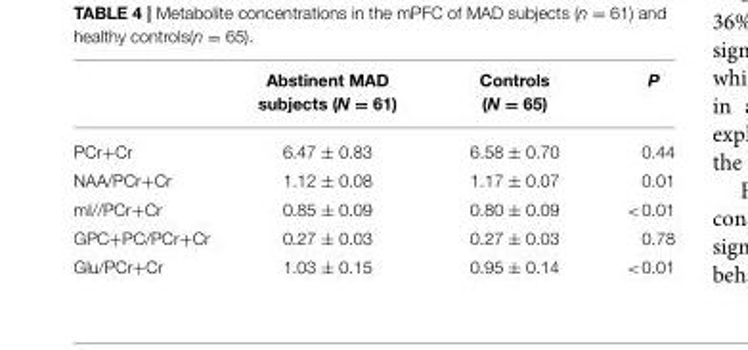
<table><thead><tr><td></td><td>Abstinent MAD subjects (N = 61)</td><td>Controls (N = 65)</td><td>P</td></tr></thead><tbody><tr><td>PCr+Cr</td><td>6.47 ± 0.83</td><td>6.58 ± 0.70</td><td>0.44</td></tr><tr><td>NAA/PCr+Cr</td><td>1.12 ± 0.08</td><td>1.17 ± 0.07</td><td>0.01</td></tr><tr><td>mI//PCr+Cr</td><td>0.85 ± 0.09</td><td>0.80 ± 0.09</td><td>&lt;0.01</td></tr><tr><td>GPC+PC/PCr+Cr</td><td>0.27 ± 0.03</td><td>0.27 ± 0.03</td><td>0.78</td></tr><tr><td>Glu/PCr+Cr</td><td>1.03 ± 0.15</td><td>0.95 ± 0.14</td><td>&lt;0.01</td></tr></tbody></table>